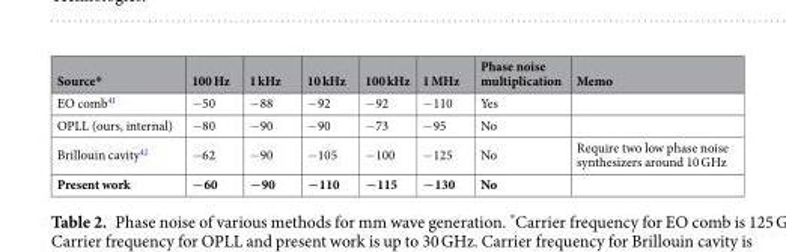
<table><thead><tr><td>Source*</td><td>100 Hz</td><td>1 kHz</td><td>10 kHz</td><td>100 kHz</td><td>1 MHz</td><td>Phase noise multiplication</td><td>Memo</td></tr></thead><tbody><tr><td>EO comb<sup>41</sup></td><td>−50</td><td>−88</td><td>−92</td><td>−92</td><td>−110</td><td>Yes</td><td></td></tr><tr><td>OPLL (ours, internal)</td><td>−80</td><td>−90</td><td>−90</td><td>−73</td><td>−95</td><td>No</td><td></td></tr><tr><td>Brillouin cavity<sup>42</sup></td><td>−62</td><td>−90</td><td>−105</td><td>−100</td><td>−125</td><td>No</td><td>Require two low phase noise synthesizers around 10 GHz</td></tr><tr><td>Present work</td><td>−60</td><td>−90</td><td>−110</td><td>−115</td><td>−130</td><td>No</td><td></td></tr></tbody></table>